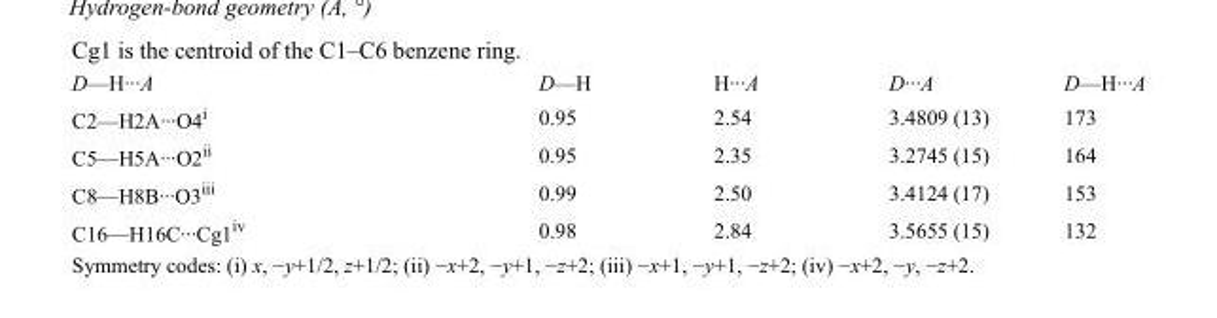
<table><tbody><tr><td>D—H···A</td><td>D—H</td><td>H···A</td><td>D···A</td><td>D—H···A</td></tr><tr><td>C2—H2A···O4<sup>i</sup></td><td>0.95</td><td>2.54</td><td>3.4809 (13)</td><td>173</td></tr><tr><td>C5—H5A···O2<sup>ii</sup></td><td>0.95</td><td>2.35</td><td>3.2745 (15)</td><td>164</td></tr><tr><td>C8—H8B···O3<sup>iii</sup></td><td>0.99</td><td>2.50</td><td>3.4124 (17)</td><td>153</td></tr><tr><td>C16—H16C···Cg1<sup>iv</sup></td><td>0.98</td><td>2.84</td><td>3.5655 (15)</td><td>132</td></tr></tbody></table>